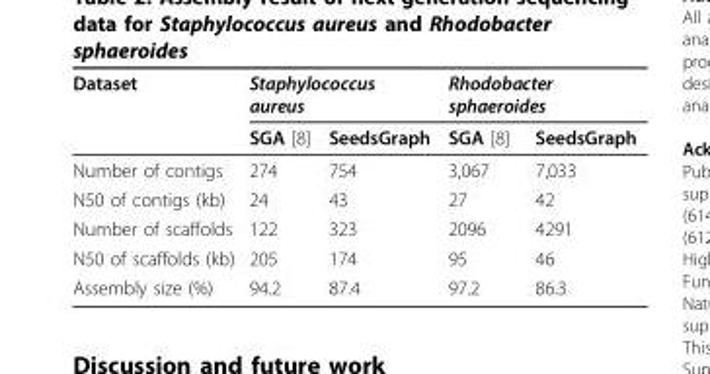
<table><thead><tr><td rowspan="2">Dataset</td><td colspan="2">Staphylococcus aureus</td><td colspan="2">Rhodobacter sphaeroides</td></tr><tr><td>SGA [8]</td><td>SeedsGraph</td><td>SGA [8]</td><td>SeedsGraph</td></tr></thead><tbody><tr><td>Number of contigs</td><td>274</td><td>754</td><td>3,067</td><td>7,033</td></tr><tr><td>N50 of contigs (kb)</td><td>24</td><td>43</td><td>27</td><td>42</td></tr><tr><td>Number of scaffolds</td><td>122</td><td>323</td><td>2096</td><td>4291</td></tr><tr><td>N50 of scaffolds (kb)</td><td>205</td><td>174</td><td>95</td><td>46</td></tr><tr><td>Assembly size (%)</td><td>94.2</td><td>87.4</td><td>97.2</td><td>86.3</td></tr></tbody></table>